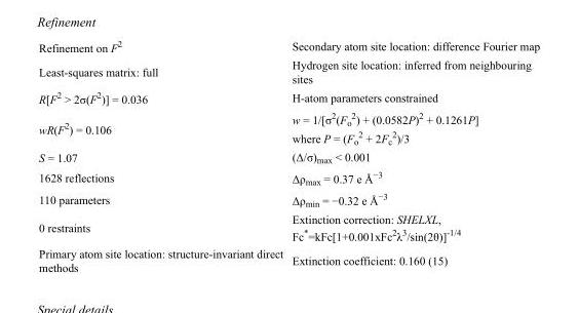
<table><tbody><tr><td>Refinement on F<sup>2</sup></td><td>Secondary atom site location: difference Fourier map</td></tr><tr><td>Least-squares matrix: full</td><td>Hydrogen site location: inferred from neighbouring sites</td></tr><tr><td>R[F<sup>2</sup> &gt; 2σ(F<sup>2</sup>)] = 0.036</td><td>H-atom parameters constrained</td></tr><tr><td>wR(F<sup>2</sup>) = 0.106</td><td>w = 1/[σ<sup>2</sup>(F<sub>o</sub> <sup>2</sup>) + (0.0582P)<sup>2</sup> + 0.1261P] where P = (F<sub>o</sub> <sup>2</sup> + 2F<sub>c</sub> <sup>2</sup>)/3</td></tr><tr><td>S = 1.07</td><td>(Δ/σ)<sub>max</sub> &lt; 0.001</td></tr><tr><td>1628 reflections</td><td>Δρ<sub>max</sub> = 0.37 e Å<sup>−3</sup></td></tr><tr><td>110 parameters</td><td>Δρ<sub>min</sub> = −0.32 e Å<sup>−3</sup></td></tr><tr><td>0 restraints</td><td>Extinction correction: SHELXL, Fc*=kFc[1+0.001xFc<sup>2</sup>λ<sup>3</sup>/sin(2θ)]<sup>-1/4</sup></td></tr><tr><td>Primary atom site location: structure-invariant direct methods</td><td>Extinction coefficient: 0.160 (15)</td></tr></tbody></table>